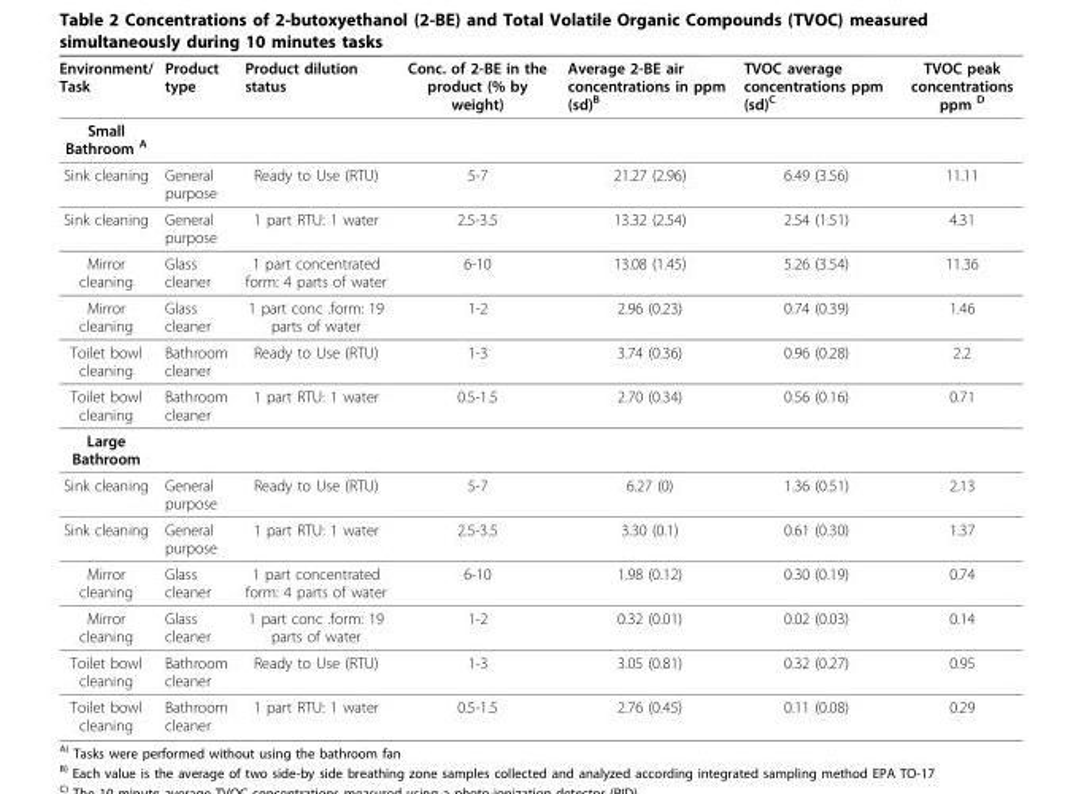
<table><thead><tr><td>Environment/ Task</td><td>Product type</td><td>Product dilution status</td><td>Conc. of 2-BE in the product (% by weight)</td><td>Average 2-BE air concentrations in ppm (sd)<sup>B</sup></td><td>TVOC average concentrations ppm (sd)<sup>C</sup></td><td>TVOC peak concentrations ppm <sup>D</sup></td></tr></thead><tbody><tr><td colspan="7">Small Bathroom <sup>A</sup></td></tr><tr><td>Sink cleaning</td><td>General purpose</td><td>Ready to Use (RTU)</td><td>5-7</td><td>21.27 (2.96)</td><td>6.49 (3.56)</td><td>11.11</td></tr><tr><td>Sink cleaning</td><td>General purpose</td><td>1 part RTU: 1 water</td><td>2.5-3.5</td><td>13.32 (2.54)</td><td>2.54 (1.51)</td><td>4.31</td></tr><tr><td>Mirror cleaning</td><td>Glass cleaner</td><td>1 part concentrated form: 4 parts of water</td><td>6-10</td><td>13.08 (1.45)</td><td>5.26 (3.54)</td><td>11.36</td></tr><tr><td>Mirror cleaning</td><td>Glass cleaner</td><td>1 part conc .form: 19 parts of water</td><td>1-2</td><td>2.96 (0.23)</td><td>0.74 (0.39)</td><td>1.46</td></tr><tr><td>Toilet bowl cleaning</td><td>Bathroom cleaner</td><td>Ready to Use (RTU)</td><td>1-3</td><td>3.74 (0.36)</td><td>0.96 (0.28)</td><td>2.2</td></tr><tr><td>Toilet bowl cleaning</td><td>Bathroom cleaner</td><td>1 part RTU: 1 water</td><td>0.5-1.5</td><td>2.70 (0.34)</td><td>0.56 (0.16)</td><td>0.71</td></tr><tr><td colspan="7">Large Bathroom</td></tr><tr><td>Sink cleaning</td><td>General purpose</td><td>Ready to Use (RTU)</td><td>5-7</td><td>6.27 (0)</td><td>1.36 (0.51)</td><td>2.13</td></tr><tr><td>Sink cleaning</td><td>General purpose</td><td>1 part RTU: 1 water</td><td>2.5-3.5</td><td>3.30 (0.1)</td><td>0.61 (0.30)</td><td>1.37</td></tr><tr><td>Mirror cleaning</td><td>Glass cleaner</td><td>1 part concentrated form: 4 parts of water</td><td>6-10</td><td>1.98 (0.12)</td><td>0.30 (0.19)</td><td>0.74</td></tr><tr><td>Mirror cleaning</td><td>Glass cleaner</td><td>1 part conc .form: 19 parts of water</td><td>1-2</td><td>0.32 (0.01)</td><td>0.02 (0.03)</td><td>0.14</td></tr><tr><td>Toilet bowl cleaning</td><td>Bathroom cleaner</td><td>Ready to Use (RTU)</td><td>1-3</td><td>3.05 (0.81)</td><td>0.32 (0.27)</td><td>0.95</td></tr><tr><td>Toilet bowl cleaning</td><td>Bathroom cleaner</td><td>1 part RTU: 1 water</td><td>0.5-1.5</td><td>2.76 (0.45)</td><td>0.11 (0.08)</td><td>0.29</td></tr></tbody></table>